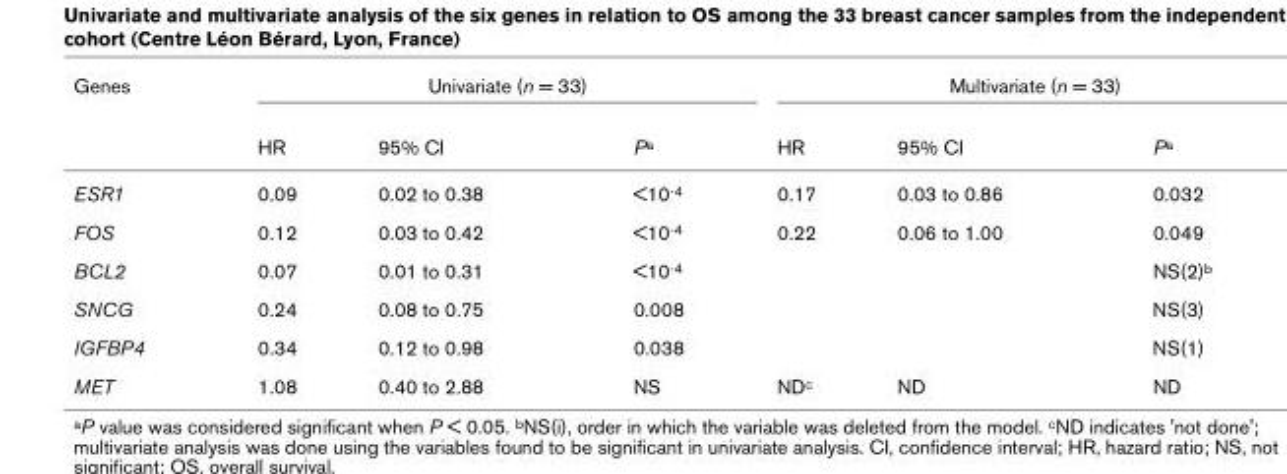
<table><thead><tr><td rowspan="2">Genes</td><td colspan="3">Univariate (n = 33)</td><td colspan="3">Multivariate (n = 33)</td></tr><tr><td>HR</td><td>95% CI</td><td>P<sup>a</sup></td><td>HR</td><td>95% CI</td><td>P<sup>a</sup></td></tr></thead><tbody><tr><td>ESR1</td><td>0.09</td><td>0.02 to 0.38</td><td>&lt;10<sup>-4</sup></td><td>0.17</td><td>0.03 to 0.86</td><td>0.032</td></tr><tr><td>FOS</td><td>0.12</td><td>0.03 to 0.42</td><td>&lt;10<sup>-4</sup></td><td>0.22</td><td>0.06 to 1.00</td><td>0.049</td></tr><tr><td>BCL2</td><td>0.07</td><td>0.01 to 0.31</td><td>&lt;10<sup>-4</sup></td><td></td><td></td><td>NS(2)<sup>b</sup></td></tr><tr><td>SNCG</td><td>0.24</td><td>0.08 to 0.75</td><td>0.008</td><td></td><td></td><td>NS(3)</td></tr><tr><td>IGFBP4</td><td>0.34</td><td>0.12 to 0.98</td><td>0.038</td><td></td><td></td><td>NS(1)</td></tr><tr><td>MET</td><td>1.08</td><td>0.40 to 2.88</td><td>NS</td><td>ND<sup>c</sup></td><td>ND</td><td>ND</td></tr></tbody></table>